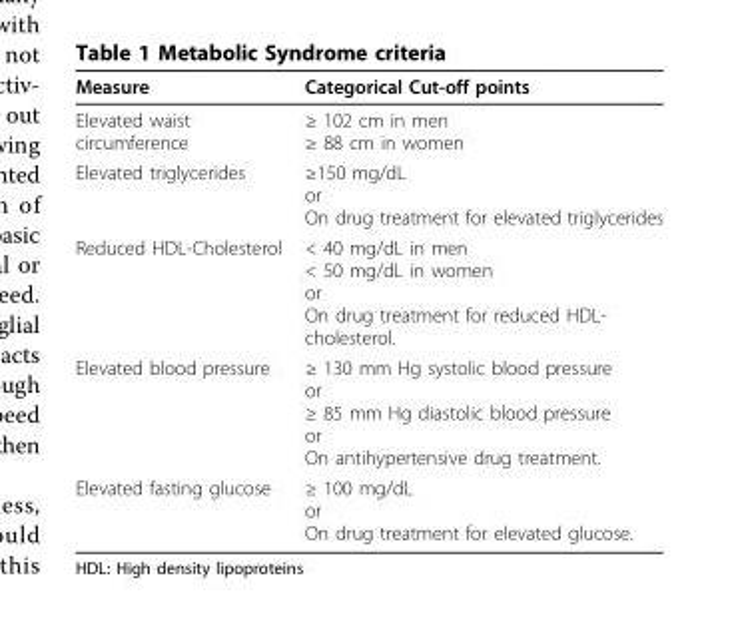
<table><thead><tr><td>Measure</td><td>Categorical Cut-off points</td></tr></thead><tbody><tr><td>Elevated waist circumference</td><td>≥ 102 cm in men ≥ 88 cm in women</td></tr><tr><td>Elevated triglycerides</td><td>≥150 mg/dL or On drug treatment for elevated triglycerides</td></tr><tr><td>Reduced HDL-Cholesterol</td><td>&lt; 40 mg/dL in men &lt; 50 mg/dL in women or On drug treatment for reduced HDL- cholesterol.</td></tr><tr><td>Elevated blood pressure</td><td>≥ 130 mm Hg systolic blood pressure or ≥ 85 mm Hg diastolic blood pressure or On antihypertensive drug treatment.</td></tr><tr><td>Elevated fasting glucose</td><td>≥ 100 mg/dL or On drug treatment for elevated glucose.</td></tr></tbody></table>